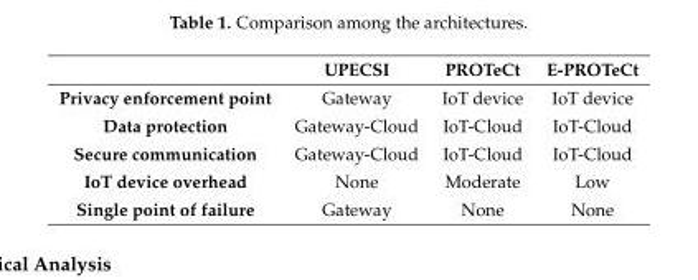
<table><thead><tr><td></td><td>UPECSI</td><td>PROTeCt</td><td>E-PROTeCt</td></tr></thead><tbody><tr><td>Privacy enforcement point</td><td>Gateway</td><td>IoT device</td><td>IoT device</td></tr><tr><td>Data protection</td><td>Gateway-Cloud</td><td>IoT-Cloud</td><td>IoT-Cloud</td></tr><tr><td>Secure communication</td><td>Gateway-Cloud</td><td>IoT-Cloud</td><td>IoT-Cloud</td></tr><tr><td>IoT device overhead</td><td>None</td><td>Moderate</td><td>Low</td></tr><tr><td>Single point of failure</td><td>Gateway</td><td>None</td><td>None</td></tr></tbody></table>